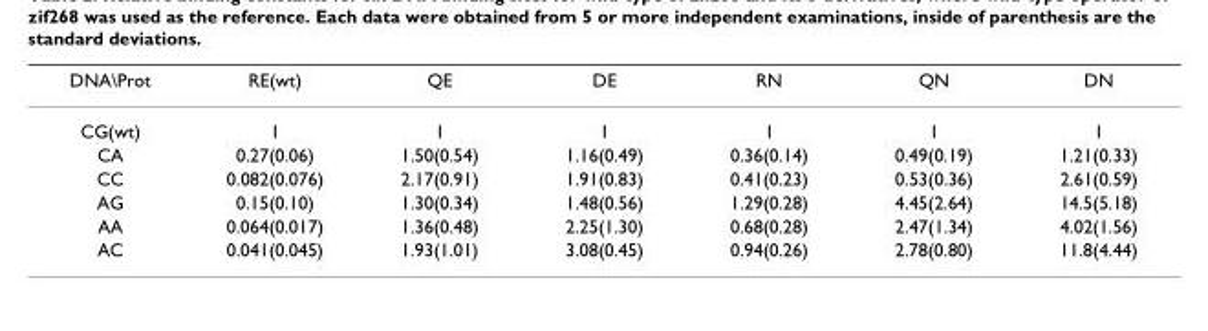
<table><thead><tr><td>DNA\Prot</td><td>RE(wt)</td><td>QE</td><td>DE</td><td>RN</td><td>QN</td><td>DN</td></tr></thead><tbody><tr><td>CG(wt)</td><td>1</td><td>1</td><td>1</td><td>1</td><td>1</td><td>1</td></tr><tr><td>CA</td><td>0.27(0.06)</td><td>1.50(0.54)</td><td>1.16(0.49)</td><td>0.36(0.14)</td><td>0.49(0.19)</td><td>1.21(0.33)</td></tr><tr><td>CC</td><td>0.082(0.076)</td><td>2.17(0.91)</td><td>1.91(0.83)</td><td>0.41(0.23)</td><td>0.53(0.36)</td><td>2.61(0.59)</td></tr><tr><td>AG</td><td>0.15(0.10)</td><td>1.30(0.34)</td><td>1.48(0.56)</td><td>1.29(0.28)</td><td>4.45(2.64)</td><td>14.5(5.18)</td></tr><tr><td>AA</td><td>0.064(0.017)</td><td>1.36(0.48)</td><td>2.25(1.30)</td><td>0.68(0.28)</td><td>2.47(1.34)</td><td>4.02(1.56)</td></tr><tr><td>AC</td><td>0.041(0.045)</td><td>1.93(1.01)</td><td>3.08(0.45)</td><td>0.94(0.26)</td><td>2.78(0.80)</td><td>11.8(4.44)</td></tr></tbody></table>